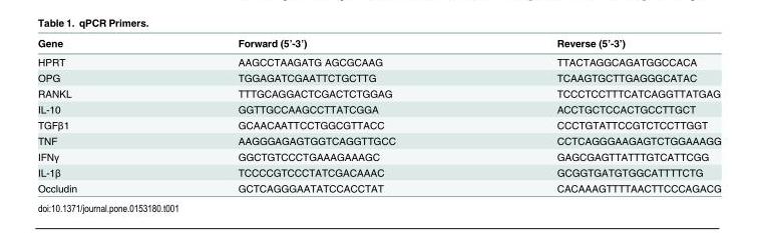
<table><thead><tr><td>Gene</td><td>Forward (5’-3’)</td><td>Reverse (5’-3’)</td></tr></thead><tbody><tr><td>HPRT</td><td>AAGCCTAAGATG AGCGCAAG</td><td>TTACTAGGCAGATGGCCACA</td></tr><tr><td>OPG</td><td>TGGAGATCGAATTCTGCTTG</td><td>TCAAGTGCTTGAGGGCATAC</td></tr><tr><td>RANKL</td><td>TTTGCAGGACTCGACTCTGGAG</td><td>TCCCTCCTTTCATCAGGTTATGAG</td></tr><tr><td>IL-10</td><td>GGTTGCCAAGCCTTATCGGA</td><td>ACCTGCTCCACTGCCTTGCT</td></tr><tr><td>TGFβ1</td><td>GCAACAATTCCTGGCGTTACC</td><td>CCCTGTATTCCGTCTCCTTGGT</td></tr><tr><td>TNF</td><td>AAGGGAGAGTGGTCAGGTTGCC</td><td>CCTCAGGGAAGAGTCTGGAAAGG</td></tr><tr><td>IFNγ</td><td>GGCTGTCCCTGAAAGAAAGC</td><td>GAGCGAGTTATTTGTCATTCGG</td></tr><tr><td>IL-1β</td><td>TCCCCGTCCCTATCGACAAAC</td><td>GCGGTGATGTGGCATTTTCTG</td></tr><tr><td>Occludin</td><td>GCTCAGGGAATATCCACCTAT</td><td>CACAAAGTTTTAACTTCCCAGACG</td></tr></tbody></table>